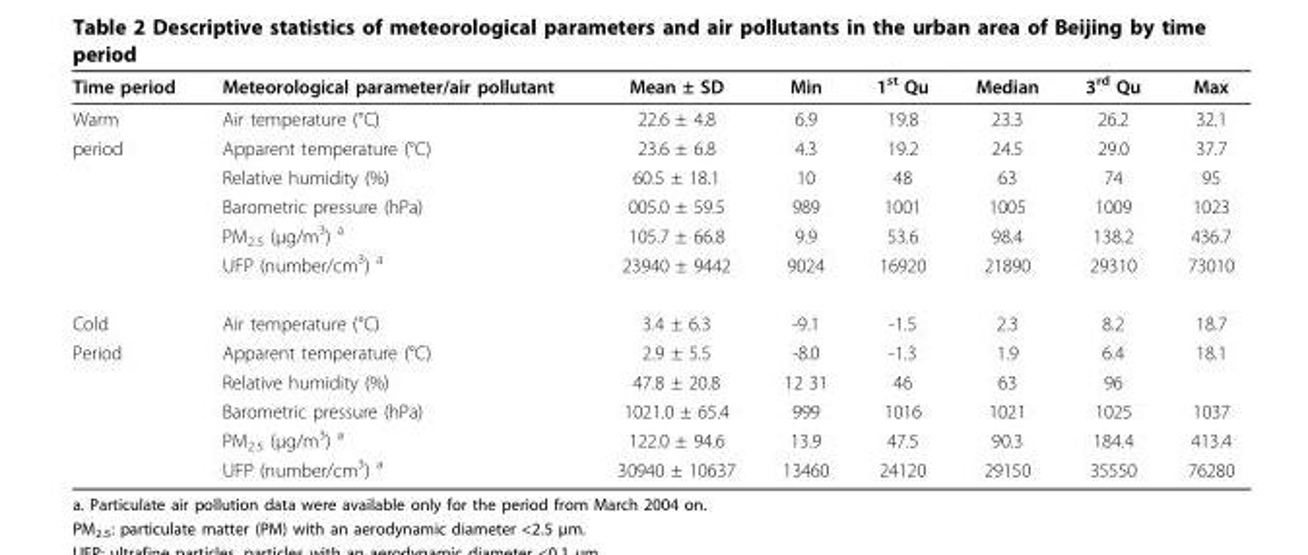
<table><thead><tr><td>Time period</td><td>Meteorological parameter/air pollutant</td><td>Mean ± SD</td><td>Min</td><td>1<sup>st</sup> Qu</td><td>Median</td><td>3<sup>rd</sup> Qu</td><td>Max</td></tr></thead><tbody><tr><td>Warm</td><td>Air temperature (°C)</td><td>22.6 ± 4.8</td><td>6.9</td><td>19.8</td><td>23.3</td><td>26.2</td><td>32.1</td></tr><tr><td rowspan="5">period</td><td>Apparent temperature (°C)</td><td>23.6 ± 6.8</td><td>4.3</td><td>19.2</td><td>24.5</td><td>29.0</td><td>37.7</td></tr><tr><td>Relative humidity (%)</td><td>60.5 ± 18.1</td><td>10</td><td>48</td><td>63</td><td>74</td><td>95</td></tr><tr><td>Barometric pressure (hPa)</td><td>005.0 ± 59.5</td><td>989</td><td>1001</td><td>1005</td><td>1009</td><td>1023</td></tr><tr><td>PM<sub>2.5</sub> (μg/m<sup>3</sup>) <sup>a</sup></td><td>105.7 ± 66.8</td><td>9.9</td><td>53.6</td><td>98.4</td><td>138.2</td><td>436.7</td></tr><tr><td>UFP (number/cm<sup>3</sup>) <sup>a</sup></td><td>23940 ± 9442</td><td>9024</td><td>16920</td><td>21890</td><td>29310</td><td>73010</td></tr><tr><td>Cold</td><td>Air temperature (°C)</td><td>3.4 ± 6.3</td><td>-9.1</td><td>-1.5</td><td>2.3</td><td>8.2</td><td>18.7</td></tr><tr><td rowspan="5">Period</td><td>Apparent temperature (°C)</td><td>2.9 ± 5.5</td><td>-8.0</td><td>-1.3</td><td>1.9</td><td>6.4</td><td>18.1</td></tr><tr><td>Relative humidity (%)</td><td>47.8 ± 20.8</td><td>12 31</td><td>46</td><td>63</td><td>96</td><td></td></tr><tr><td>Barometric pressure (hPa)</td><td>1021.0 ± 65.4</td><td>999</td><td>1016</td><td>1021</td><td>1025</td><td>1037</td></tr><tr><td>PM<sub>2.5</sub> (μg/m<sup>3</sup>) <sup>a</sup></td><td>122.0 ± 94.6</td><td>13.9</td><td>47.5</td><td>90.3</td><td>184.4</td><td>413.4</td></tr><tr><td>UFP (number/cm<sup>3</sup>) <sup>a</sup></td><td>30940 ± 10637</td><td>13460</td><td>24120</td><td>29150</td><td>35550</td><td>76280</td></tr></tbody></table>